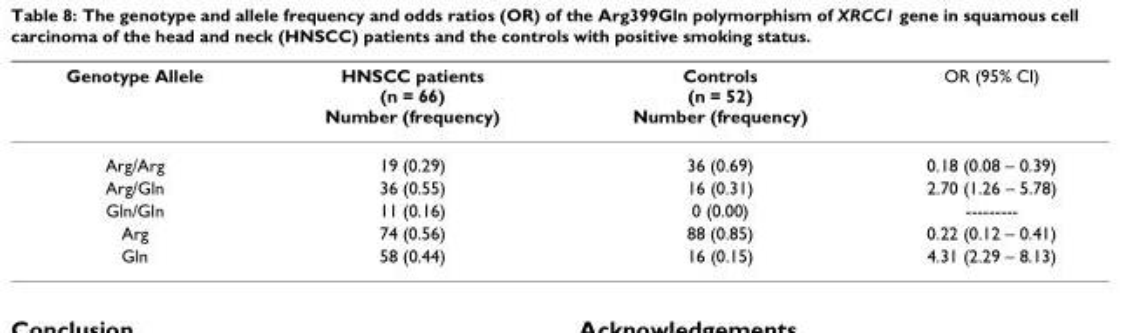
<table><thead><tr><td>Genotype Allele</td><td>HNSCC patients (n = 66) Number (frequency)</td><td>Controls (n = 52) Number (frequency)</td><td>OR (95% CI)</td></tr></thead><tbody><tr><td>Arg/Arg</td><td>19 (0.29)</td><td>36 (0.69)</td><td>0.18 (0.08 – 0.39)</td></tr><tr><td>Arg/Gln</td><td>36 (0.55)</td><td>16 (0.31)</td><td>2.70 (1.26 – 5.78)</td></tr><tr><td>Gln/Gln</td><td>11 (0.16)</td><td>0 (0.00)</td><td>---------</td></tr><tr><td>Arg</td><td>74 (0.56)</td><td>88 (0.85)</td><td>0.22 (0.12 – 0.41)</td></tr><tr><td>Gln</td><td>58 (0.44)</td><td>16 (0.15)</td><td>4.31 (2.29 – 8.13)</td></tr></tbody></table>